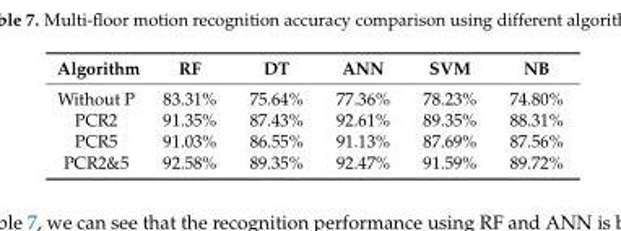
<table><thead><tr><td>Algorithm</td><td>RF</td><td>DT</td><td>ANN</td><td>SVM</td><td>NB</td></tr></thead><tbody><tr><td>Without P</td><td>83.31%</td><td>75.64%</td><td>77.36%</td><td>78.23%</td><td>74.80%</td></tr><tr><td>PCR2</td><td>91.35%</td><td>87.43%</td><td>92.61%</td><td>89.35%</td><td>88.31%</td></tr><tr><td>PCR5</td><td>91.03%</td><td>86.55%</td><td>91.13%</td><td>87.69%</td><td>87.56%</td></tr><tr><td>PCR2&amp;5</td><td>92.58%</td><td>89.35%</td><td>92.47%</td><td>91.59%</td><td>89.72%</td></tr></tbody></table>